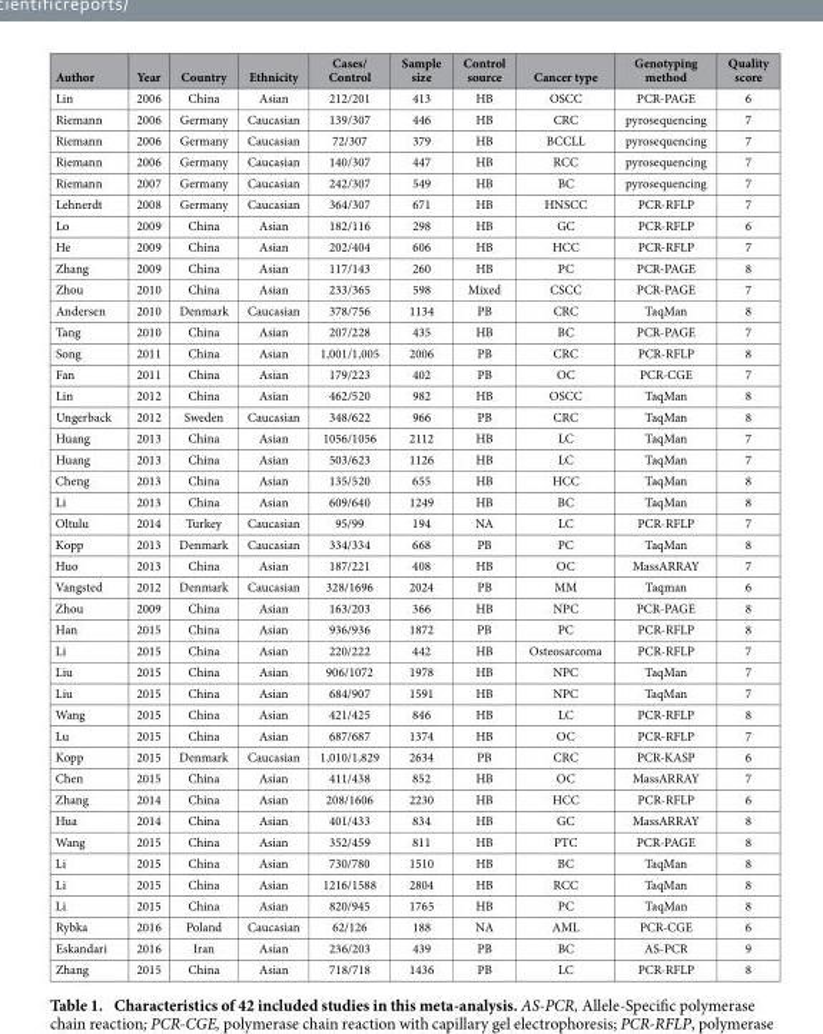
<table><thead><tr><td>Author</td><td>Year</td><td>Country</td><td>Ethnicity</td><td>Cases/ Control</td><td>Sample size</td><td>Control source</td><td>Cancer type</td><td>Genotyping method</td><td>Quality score</td></tr></thead><tbody><tr><td>Lin</td><td>2006</td><td>China</td><td>Asian</td><td>212/201</td><td>413</td><td>HB</td><td>OSCC</td><td>PCR-PAGE</td><td>6</td></tr><tr><td>Riemann</td><td>2006</td><td>Germany</td><td>Caucasian</td><td>139/307</td><td>446</td><td>HB</td><td>CRC</td><td>pyrosequencing</td><td>7</td></tr><tr><td>Riemann</td><td>2006</td><td>Germany</td><td>Caucasian</td><td>72/307</td><td>379</td><td>HB</td><td>BCCLL</td><td>pyrosequencing</td><td>7</td></tr><tr><td>Riemann</td><td>2006</td><td>Germany</td><td>Caucasian</td><td>140/307</td><td>447</td><td>HB</td><td>RCC</td><td>pyrosequencing</td><td>7</td></tr><tr><td>Riemann</td><td>2007</td><td>Germany</td><td>Caucasian</td><td>242/307</td><td>549</td><td>HB</td><td>BC</td><td>pyrosequencing</td><td>7</td></tr><tr><td>Lehnerdt</td><td>2008</td><td>Germany</td><td>Caucasian</td><td>364/307</td><td>671</td><td>HB</td><td>HNSCC</td><td>PCR-RFLP</td><td>7</td></tr><tr><td>Lo</td><td>2009</td><td>China</td><td>Asian</td><td>182/116</td><td>298</td><td>HB</td><td>GC</td><td>PCR-RFLP</td><td>6</td></tr><tr><td>He</td><td>2009</td><td>China</td><td>Asian</td><td>202/404</td><td>606</td><td>HB</td><td>HCC</td><td>PCR-RFLP</td><td>7</td></tr><tr><td>Zhang</td><td>2009</td><td>China</td><td>Asian</td><td>117/143</td><td>260</td><td>HB</td><td>PC</td><td>PCR-PAGE</td><td>8</td></tr><tr><td>Zhou</td><td>2010</td><td>China</td><td>Asian</td><td>233/365</td><td>598</td><td>Mixed</td><td>CSCC</td><td>PCR-PAGE</td><td>7</td></tr><tr><td>Andersen</td><td>2010</td><td>Denmark</td><td>Caucasian</td><td>378/756</td><td>1134</td><td>PB</td><td>CRC</td><td>TaqMan</td><td>8</td></tr><tr><td>Tang</td><td>2010</td><td>China</td><td>Asian</td><td>207/228</td><td>435</td><td>HB</td><td>BC</td><td>PCR-PAGE</td><td>7</td></tr><tr><td>Song</td><td>2011</td><td>China</td><td>Asian</td><td>1,001/1,005</td><td>2006</td><td>PB</td><td>CRC</td><td>PCR-RFLP</td><td>8</td></tr><tr><td>Fan</td><td>2011</td><td>China</td><td>Asian</td><td>179/223</td><td>402</td><td>PB</td><td>OC</td><td>PCR-CGE</td><td>7</td></tr><tr><td>Lin</td><td>2012</td><td>China</td><td>Asian</td><td>462/520</td><td>982</td><td>HB</td><td>OSCC</td><td>TaqMan</td><td>8</td></tr><tr><td>Ungerback</td><td>2012</td><td>Sweden</td><td>Caucasian</td><td>348/622</td><td>966</td><td>PB</td><td>CRC</td><td>TaqMan</td><td>8</td></tr><tr><td>Huang</td><td>2013</td><td>China</td><td>Asian</td><td>1056/1056</td><td>2112</td><td>HB</td><td>LC</td><td>TaqMan</td><td>7</td></tr><tr><td>Huang</td><td>2013</td><td>China</td><td>Asian</td><td>503/623</td><td>1126</td><td>HB</td><td>LC</td><td>TaqMan</td><td>7</td></tr><tr><td>Cheng</td><td>2013</td><td>China</td><td>Asian</td><td>135/520</td><td>655</td><td>HB</td><td>HCC</td><td>TaqMan</td><td>8</td></tr><tr><td>Li</td><td>2013</td><td>China</td><td>Asian</td><td>609/640</td><td>1249</td><td>HB</td><td>BC</td><td>TaqMan</td><td>8</td></tr><tr><td>Oltulu</td><td>2014</td><td>Turkey</td><td>Caucasian</td><td>95/99</td><td>194</td><td>NA</td><td>LC</td><td>PCR-RFLP</td><td>7</td></tr><tr><td>Kopp</td><td>2013</td><td>Denmark</td><td>Caucasian</td><td>334/334</td><td>668</td><td>PB</td><td>PC</td><td>TaqMan</td><td>8</td></tr><tr><td>Huo</td><td>2013</td><td>China</td><td>Asian</td><td>187/221</td><td>408</td><td>HB</td><td>OC</td><td>MassARRAY</td><td>7</td></tr><tr><td>Vangsted</td><td>2012</td><td>Denmark</td><td>Caucasian</td><td>328/1696</td><td>2024</td><td>PB</td><td>MM</td><td>Taqman</td><td>6</td></tr><tr><td>Zhou</td><td>2009</td><td>China</td><td>Asian</td><td>163/203</td><td>366</td><td>HB</td><td>NPC</td><td>PCR-PAGE</td><td>8</td></tr><tr><td>Han</td><td>2015</td><td>China</td><td>Asian</td><td>936/936</td><td>1872</td><td>PB</td><td>PC</td><td>PCR-RFLP</td><td>8</td></tr><tr><td>Li</td><td>2015</td><td>China</td><td>Asian</td><td>220/222</td><td>442</td><td>HB</td><td>Osteosarcoma</td><td>PCR-RFLP</td><td>7</td></tr><tr><td>Liu</td><td>2015</td><td>China</td><td>Asian</td><td>906/1072</td><td>1978</td><td>HB</td><td>NPC</td><td>TaqMan</td><td>7</td></tr><tr><td>Liu</td><td>2015</td><td>China</td><td>Asian</td><td>684/907</td><td>1591</td><td>HB</td><td>NPC</td><td>TaqMan</td><td>7</td></tr><tr><td>Wang</td><td>2015</td><td>China</td><td>Asian</td><td>421/425</td><td>846</td><td>HB</td><td>LC</td><td>PCR-RFLP</td><td>8</td></tr><tr><td>Lu</td><td>2015</td><td>China</td><td>Asian</td><td>687/687</td><td>1374</td><td>HB</td><td>OC</td><td>PCR-RFLP</td><td>7</td></tr><tr><td>Kopp</td><td>2015</td><td>Denmark</td><td>Caucasian</td><td>1,010/1,829</td><td>2634</td><td>PB</td><td>CRC</td><td>PCR-KASP</td><td>6</td></tr><tr><td>Chen</td><td>2015</td><td>China</td><td>Asian</td><td>411/438</td><td>852</td><td>HB</td><td>OC</td><td>MassARRAY</td><td>7</td></tr><tr><td>Zhang</td><td>2014</td><td>China</td><td>Asian</td><td>208/1606</td><td>2230</td><td>HB</td><td>HCC</td><td>PCR-RFLP</td><td>6</td></tr><tr><td>Hua</td><td>2014</td><td>China</td><td>Asian</td><td>401/433</td><td>834</td><td>HB</td><td>GC</td><td>MassARRAY</td><td>8</td></tr><tr><td>Wang</td><td>2015</td><td>China</td><td>Asian</td><td>352/459</td><td>811</td><td>HB</td><td>PTC</td><td>PCR-PAGE</td><td>8</td></tr><tr><td>Li</td><td>2015</td><td>China</td><td>Asian</td><td>730/780</td><td>1510</td><td>HB</td><td>BC</td><td>TaqMan</td><td>8</td></tr><tr><td>Li</td><td>2015</td><td>China</td><td>Asian</td><td>1216/1588</td><td>2804</td><td>HB</td><td>RCC</td><td>TaqMan</td><td>8</td></tr><tr><td>Li</td><td>2015</td><td>China</td><td>Asian</td><td>820/945</td><td>1765</td><td>HB</td><td>PC</td><td>TaqMan</td><td>8</td></tr><tr><td>Rybka</td><td>2016</td><td>Poland</td><td>Caucasian</td><td>62/126</td><td>188</td><td>NA</td><td>AML</td><td>PCR-CGE</td><td>6</td></tr><tr><td>Eskandari</td><td>2016</td><td>Iran</td><td>Asian</td><td>236/203</td><td>439</td><td>PB</td><td>BC</td><td>AS-PCR</td><td>9</td></tr><tr><td>Zhang</td><td>2015</td><td>China</td><td>Asian</td><td>718/718</td><td>1436</td><td>PB</td><td>LC</td><td>PCR-RFLP</td><td>8</td></tr></tbody></table>